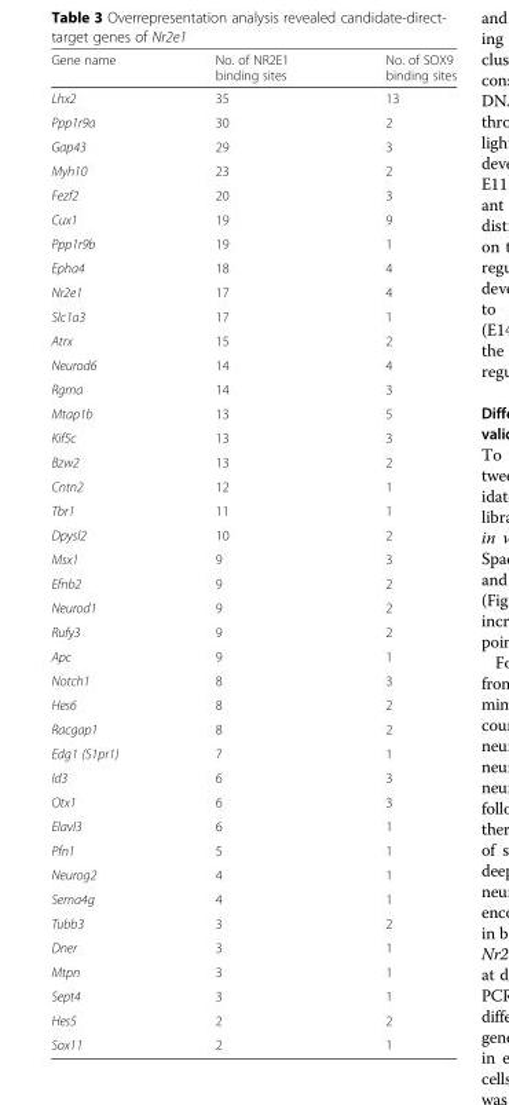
<table><thead><tr><td>Gene name</td><td>No. of NR2E1 binding sites</td><td>No. of SOX9 binding sites</td></tr></thead><tbody><tr><td>Lhx2</td><td>35</td><td>13</td></tr><tr><td>Ppp1r9a</td><td>30</td><td>2</td></tr><tr><td>Gap43</td><td>29</td><td>3</td></tr><tr><td>Myh10</td><td>23</td><td>2</td></tr><tr><td>Fezf2</td><td>20</td><td>3</td></tr><tr><td>Cux1</td><td>19</td><td>9</td></tr><tr><td>Ppp1r9b</td><td>19</td><td>1</td></tr><tr><td>Epha4</td><td>18</td><td>4</td></tr><tr><td>Nr2e1</td><td>17</td><td>4</td></tr><tr><td>Slc1a3</td><td>17</td><td>1</td></tr><tr><td>Atrx</td><td>15</td><td>2</td></tr><tr><td>Neurod6</td><td>14</td><td>4</td></tr><tr><td>Rgma</td><td>14</td><td>3</td></tr><tr><td>Mtap1b</td><td>13</td><td>5</td></tr><tr><td>Kif5c</td><td>13</td><td>3</td></tr><tr><td>Bzw2</td><td>13</td><td>2</td></tr><tr><td>Cntn2</td><td>12</td><td>1</td></tr><tr><td>Tbr1</td><td>11</td><td>1</td></tr><tr><td>Dpysl2</td><td>10</td><td>2</td></tr><tr><td>Msx1</td><td>9</td><td>3</td></tr><tr><td>Efnb2</td><td>9</td><td>2</td></tr><tr><td>Neurod1</td><td>9</td><td>2</td></tr><tr><td>Rufy3</td><td>9</td><td>2</td></tr><tr><td>Apc</td><td>9</td><td>1</td></tr><tr><td>Notch1</td><td>8</td><td>3</td></tr><tr><td>Hes6</td><td>8</td><td>2</td></tr><tr><td>Racgap1</td><td>8</td><td>2</td></tr><tr><td>Edg1 (S1pr1)</td><td>7</td><td>1</td></tr><tr><td>Id3</td><td>6</td><td>3</td></tr><tr><td>Otx1</td><td>6</td><td>3</td></tr><tr><td>Elavl3</td><td>6</td><td>1</td></tr><tr><td>Pfn1</td><td>5</td><td>1</td></tr><tr><td>Neurog2</td><td>4</td><td>1</td></tr><tr><td>Sema4g</td><td>4</td><td>1</td></tr><tr><td>Tubb3</td><td>3</td><td>2</td></tr><tr><td>Dner</td><td>3</td><td>1</td></tr><tr><td>Mtpn</td><td>3</td><td>1</td></tr><tr><td>Sept4</td><td>3</td><td>1</td></tr><tr><td>Hes5</td><td>2</td><td>2</td></tr><tr><td>Sox11</td><td>2</td><td>1</td></tr></tbody></table>